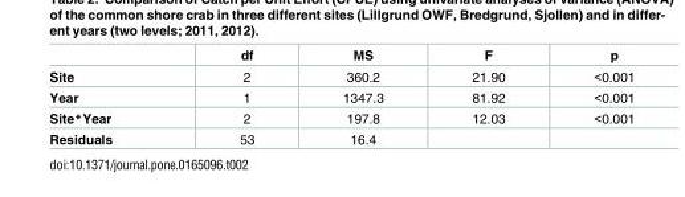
<table><thead><tr><td></td><td>df</td><td>MS</td><td>F</td><td>p</td></tr></thead><tbody><tr><td>Site</td><td>2</td><td>360.2</td><td>21.90</td><td>&lt;0.001</td></tr><tr><td>Year</td><td>1</td><td>1347.3</td><td>81.92</td><td>&lt;0.001</td></tr><tr><td>Site*Year</td><td>2</td><td>197.8</td><td>12.03</td><td>&lt;0.001</td></tr><tr><td>Residuals</td><td>53</td><td>16.4</td><td></td><td></td></tr></tbody></table>